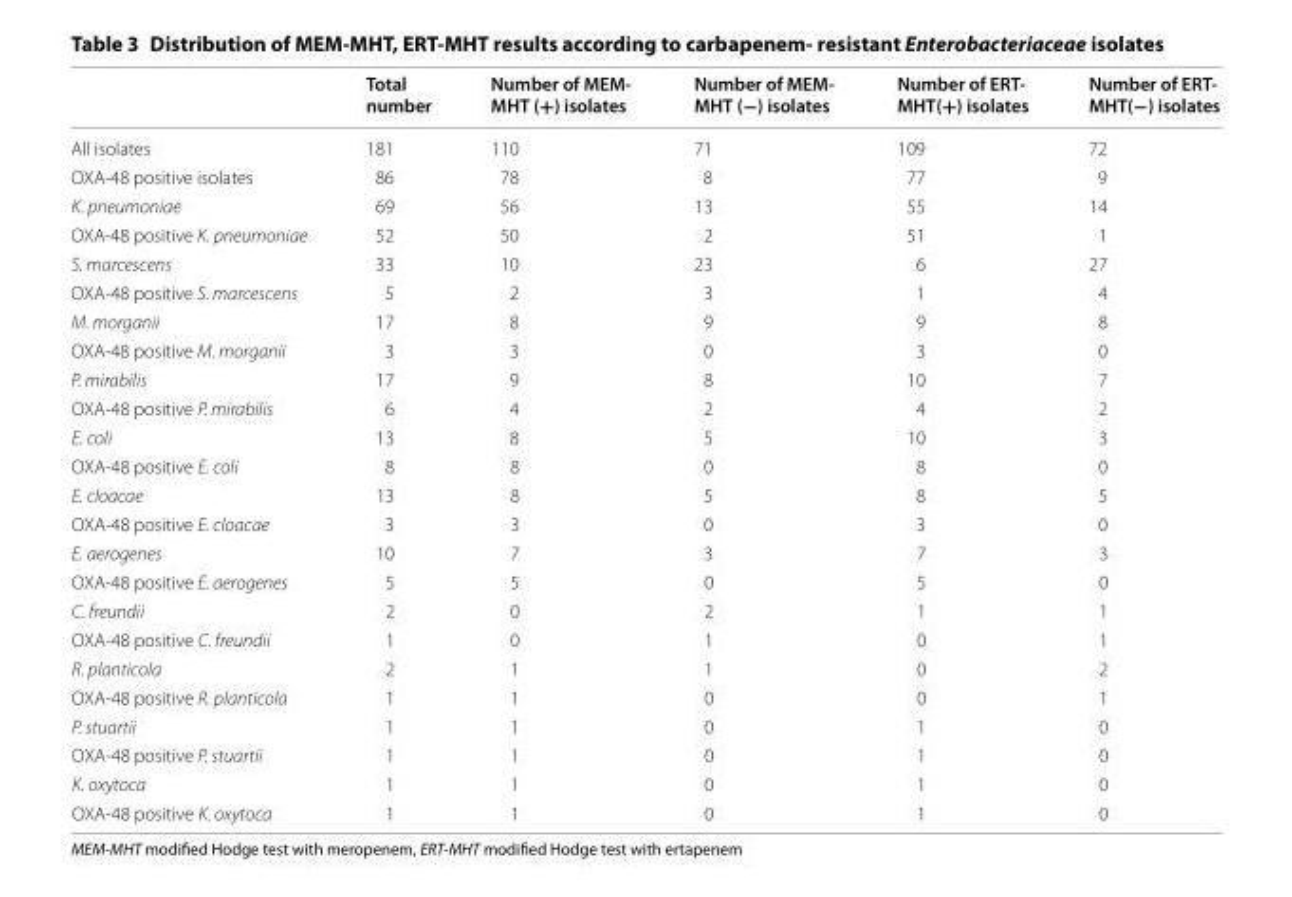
<table><thead><tr><td></td><td>Total number</td><td>Number of MEM- MHT (+) isolates</td><td>Number of MEM- MHT (−) isolates</td><td>Number of ERT- MHT(+) isolates</td><td>Number of ERT- MHT(−) isolates</td></tr></thead><tbody><tr><td>All isolates</td><td>181</td><td>110</td><td>71</td><td>109</td><td>72</td></tr><tr><td>OXA-48 positive isolates</td><td>86</td><td>78</td><td>8</td><td>77</td><td>9</td></tr><tr><td>K. pneumoniae</td><td>69</td><td>56</td><td>13</td><td>55</td><td>14</td></tr><tr><td>OXA-48 positive K. pneumoniae</td><td>52</td><td>50</td><td>2</td><td>51</td><td>1</td></tr><tr><td>S. marcescens</td><td>33</td><td>10</td><td>23</td><td>6</td><td>27</td></tr><tr><td>OXA-48 positive S. marcescens</td><td>5</td><td>2</td><td>3</td><td>1</td><td>4</td></tr><tr><td>M. morganii</td><td>17</td><td>8</td><td>9</td><td>9</td><td>8</td></tr><tr><td>OXA-48 positive M. morganii</td><td>3</td><td>3</td><td>0</td><td>3</td><td>0</td></tr><tr><td>P. mirabilis</td><td>17</td><td>9</td><td>8</td><td>10</td><td>7</td></tr><tr><td>OXA-48 positive P. mirabilis</td><td>6</td><td>4</td><td>2</td><td>4</td><td>2</td></tr><tr><td>E. coli</td><td>13</td><td>8</td><td>5</td><td>10</td><td>3</td></tr><tr><td>OXA-48 positive E. coli</td><td>8</td><td>8</td><td>0</td><td>8</td><td>0</td></tr><tr><td>E. cloacae</td><td>13</td><td>8</td><td>5</td><td>8</td><td>5</td></tr><tr><td>OXA-48 positive E. cloacae</td><td>3</td><td>3</td><td>0</td><td>3</td><td>0</td></tr><tr><td>E. aerogenes</td><td>10</td><td>7</td><td>3</td><td>7</td><td>3</td></tr><tr><td>OXA-48 positive E. aerogenes</td><td>5</td><td>5</td><td>0</td><td>5</td><td>0</td></tr><tr><td>C. freundii</td><td>2</td><td>0</td><td>2</td><td>1</td><td>1</td></tr><tr><td>OXA-48 positive C. freundii</td><td>1</td><td>0</td><td>1</td><td>0</td><td>1</td></tr><tr><td>R. planticola</td><td>2</td><td>1</td><td>1</td><td>0</td><td>2</td></tr><tr><td>OXA-48 positive R. planticola</td><td>1</td><td>1</td><td>0</td><td>0</td><td>1</td></tr><tr><td>P. stuartii</td><td>1</td><td>1</td><td>0</td><td>1</td><td>0</td></tr><tr><td>OXA-48 positive P. stuartii</td><td>1</td><td>1</td><td>0</td><td>1</td><td>0</td></tr><tr><td>K. oxytoca</td><td>1</td><td>1</td><td>0</td><td>1</td><td>0</td></tr><tr><td>OXA-48 positive K. oxytoca</td><td>1</td><td>1</td><td>0</td><td>1</td><td>0</td></tr></tbody></table>